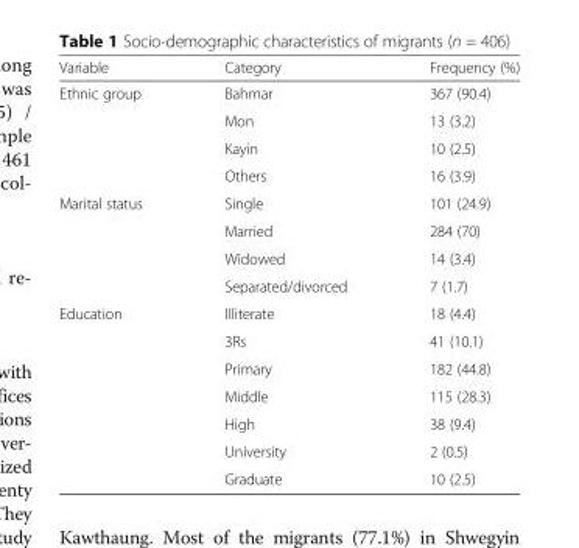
<table><thead><tr><td>Variable</td><td>Category</td><td>Frequency (%)</td></tr></thead><tbody><tr><td rowspan="4">Ethnic group</td><td>Bahmar</td><td>367 (90.4)</td></tr><tr><td>Mon</td><td>13 (3.2)</td></tr><tr><td>Kayin</td><td>10 (2.5)</td></tr><tr><td>Others</td><td>16 (3.9)</td></tr><tr><td rowspan="4">Marital status</td><td>Single</td><td>101 (24.9)</td></tr><tr><td>Married</td><td>284 (70)</td></tr><tr><td>Widowed</td><td>14 (3.4)</td></tr><tr><td>Separated/divorced</td><td>7 (1.7)</td></tr><tr><td rowspan="7">Education</td><td>Illiterate</td><td>18 (4.4)</td></tr><tr><td>3Rs</td><td>41 (10.1)</td></tr><tr><td>Primary</td><td>182 (44.8)</td></tr><tr><td>Middle</td><td>115 (28.3)</td></tr><tr><td>High</td><td>38 (9.4)</td></tr><tr><td>University</td><td>2 (0.5)</td></tr><tr><td>Graduate</td><td>10 (2.5)</td></tr></tbody></table>